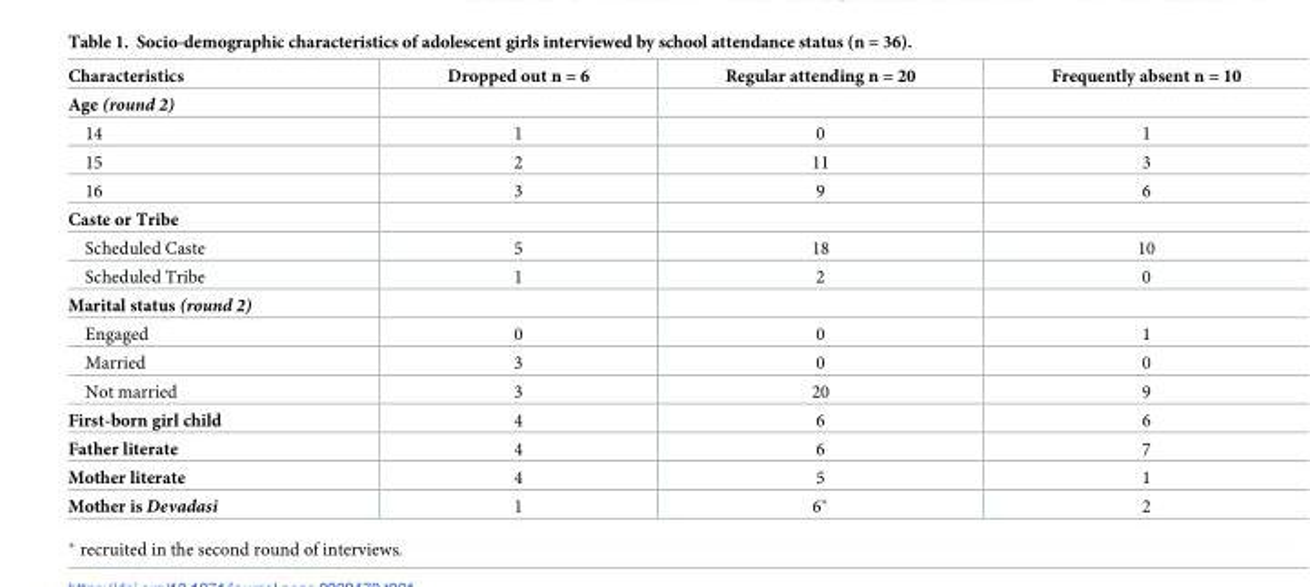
<table><thead><tr><td>Characteristics</td><td>Dropped out n = 6</td><td>Regular attending n = 20</td><td>Frequently absent n = 10</td></tr></thead><tbody><tr><td colspan="4">Age (round 2)</td></tr><tr><td>14</td><td>1</td><td>0</td><td>1</td></tr><tr><td>15</td><td>2</td><td>11</td><td>3</td></tr><tr><td>16</td><td>3</td><td>9</td><td>6</td></tr><tr><td colspan="4">Caste or Tribe</td></tr><tr><td>Scheduled Caste</td><td>5</td><td>18</td><td>10</td></tr><tr><td>Scheduled Tribe</td><td>1</td><td>2</td><td>0</td></tr><tr><td colspan="4">Marital status (round 2)</td></tr><tr><td>Engaged</td><td>0</td><td>0</td><td>1</td></tr><tr><td>Married</td><td>3</td><td>0</td><td>0</td></tr><tr><td>Not married</td><td>3</td><td>20</td><td>9</td></tr><tr><td>First-born girl child</td><td>4</td><td>6</td><td>6</td></tr><tr><td>Father literate</td><td>4</td><td>6</td><td>7</td></tr><tr><td>Mother literate</td><td>4</td><td>5</td><td>1</td></tr><tr><td>Mother is Devadasi</td><td>1</td><td>6*</td><td>2</td></tr></tbody></table>